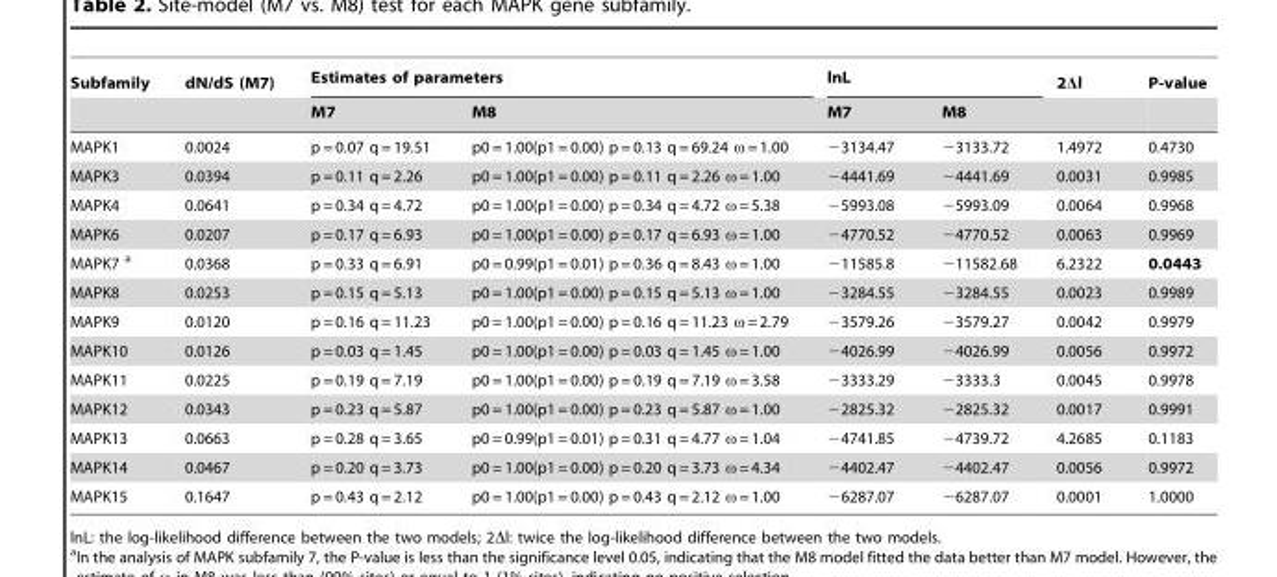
<table><thead><tr><td rowspan="2">Subfamily</td><td rowspan="2">dN/dS (M7)</td><td colspan="2">Estimates of parameters</td><td colspan="2">lnL</td><td rowspan="2">2Δl</td><td rowspan="2">P-value</td></tr><tr><td>M7</td><td>M8</td><td>M7</td><td>M8</td></tr></thead><tbody><tr><td>MAPK1</td><td>0.0024</td><td>p = 0.07 q = 19.51</td><td>p0 = 1.00(p1 = 0.00) p = 0.13 q = 69.24 ω = 1.00</td><td>−3134.47</td><td>−3133.72</td><td>1.4972</td><td>0.4730</td></tr><tr><td>MAPK3</td><td>0.0394</td><td>p = 0.11 q = 2.26</td><td>p0 = 1.00(p1 = 0.00) p = 0.11 q = 2.26 ω = 1.00</td><td>−4441.69</td><td>−4441.69</td><td>0.0031</td><td>0.9985</td></tr><tr><td>MAPK4</td><td>0.0641</td><td>p = 0.34 q = 4.72</td><td>p0 = 1.00(p1 = 0.00) p = 0.34 q = 4.72 ω = 5.38</td><td>−5993.08</td><td>−5993.09</td><td>0.0064</td><td>0.9968</td></tr><tr><td>MAPK6</td><td>0.0207</td><td>p = 0.17 q = 6.93</td><td>p0 = 1.00(p1 = 0.00) p = 0.17 q = 6.93 ω = 1.00</td><td>−4770.52</td><td>−4770.52</td><td>0.0063</td><td>0.9969</td></tr><tr><td>MAPK7 a</td><td>0.0368</td><td>p = 0.33 q = 6.91</td><td>p0 = 0.99(p1 = 0.01) p = 0.36 q = 8.43 ω = 1.00</td><td>−11585.8</td><td>−11582.68</td><td>6.2322</td><td>0.0443</td></tr><tr><td>MAPK8</td><td>0.0253</td><td>p = 0.15 q = 5.13</td><td>p0 = 1.00(p1 = 0.00) p = 0.15 q = 5.13 ω = 1.00</td><td>−3284.55</td><td>−3284.55</td><td>0.0023</td><td>0.9989</td></tr><tr><td>MAPK9</td><td>0.0120</td><td>p = 0.16 q = 11.23</td><td>p0 = 1.00(p1 = 0.00) p = 0.16 q = 11.23 ω = 2.79</td><td>−3579.26</td><td>−3579.27</td><td>0.0042</td><td>0.9979</td></tr><tr><td>MAPK10</td><td>0.0126</td><td>p = 0.03 q = 1.45</td><td>p0 = 1.00(p1 = 0.00) p = 0.03 q = 1.45 ω = 1.00</td><td>−4026.99</td><td>−4026.99</td><td>0.0056</td><td>0.9972</td></tr><tr><td>MAPK11</td><td>0.0225</td><td>p = 0.19 q = 7.19</td><td>p0 = 1.00(p1 = 0.00) p = 0.19 q = 7.19 ω = 3.58</td><td>−3333.29</td><td>−3333.3</td><td>0.0045</td><td>0.9978</td></tr><tr><td>MAPK12</td><td>0.0343</td><td>p = 0.23 q = 5.87</td><td>p0 = 1.00(p1 = 0.00) p = 0.23 q = 5.87 ω = 1.00</td><td>−2825.32</td><td>−2825.32</td><td>0.0017</td><td>0.9991</td></tr><tr><td>MAPK13</td><td>0.0663</td><td>p = 0.28 q = 3.65</td><td>p0 = 0.99(p1 = 0.01) p = 0.31 q = 4.77 ω = 1.04</td><td>−4741.85</td><td>−4739.72</td><td>4.2685</td><td>0.1183</td></tr><tr><td>MAPK14</td><td>0.0467</td><td>p = 0.20 q = 3.73</td><td>p0 = 1.00(p1 = 0.00) p = 0.20 q = 3.73 ω = 4.34</td><td>−4402.47</td><td>−4402.47</td><td>0.0056</td><td>0.9972</td></tr><tr><td>MAPK15</td><td>0.1647</td><td>p = 0.43 q = 2.12</td><td>p0 = 1.00(p1 = 0.00) p = 0.43 q = 2.12 ω = 1.00</td><td>−6287.07</td><td>−6287.07</td><td>0.0001</td><td>1.0000</td></tr></tbody></table>